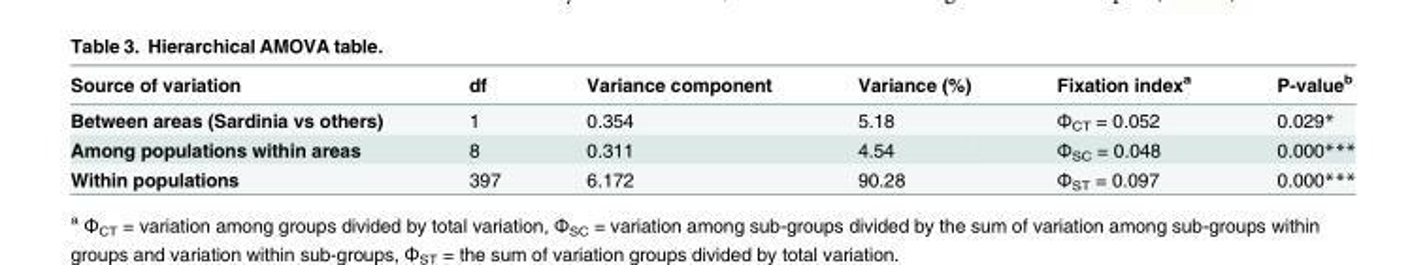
<table><thead><tr><td>Source of variation</td><td>df</td><td>Variance component</td><td>Variance (%)</td><td>Fixation index<sup>a</sup></td><td>P-value<sup>b</sup></td></tr></thead><tbody><tr><td>Between areas (Sardinia vs others)</td><td>1</td><td>0.354</td><td>5.18</td><td>Φ<sub>CT</sub> = 0.052</td><td>0.029*</td></tr><tr><td>Among populations within areas</td><td>8</td><td>0.311</td><td>4.54</td><td>Φ<sub>SC</sub> = 0.048</td><td>0.000***</td></tr><tr><td>Within populations</td><td>397</td><td>6.172</td><td>90.28</td><td>Φ<sub>ST</sub> = 0.097</td><td>0.000***</td></tr></tbody></table>